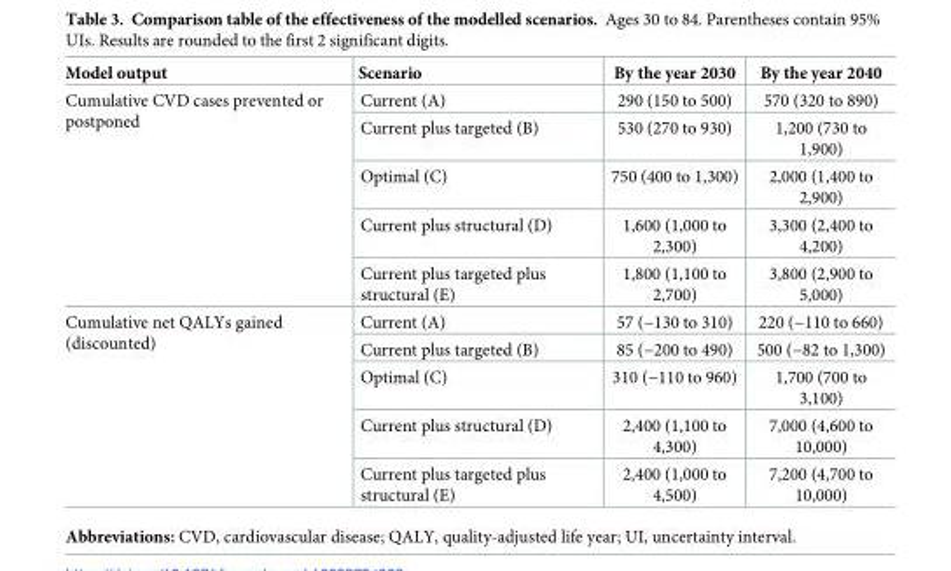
<table><thead><tr><td>Model output</td><td>Scenario</td><td>By the year 2030</td><td>By the year 2040</td></tr></thead><tbody><tr><td rowspan="5">Cumulative CVD cases prevented or postponed</td><td>Current (A)</td><td>290 (150 to 500)</td><td>570 (320 to 890)</td></tr><tr><td>Current plus targeted (B)</td><td>530 (270 to 930)</td><td>1,200 (730 to 1,900)</td></tr><tr><td>Optimal (C)</td><td>750 (400 to 1,300)</td><td>2,000 (1,400 to 2,900)</td></tr><tr><td>Current plus structural (D)</td><td>1,600 (1,000 to 2,300)</td><td>3,300 (2,400 to 4,200)</td></tr><tr><td>Current plus targeted plus structural (E)</td><td>1,800 (1,100 to 2,700)</td><td>3,800 (2,900 to 5,000)</td></tr><tr><td rowspan="5">Cumulative net QALYs gained (discounted)</td><td>Current (A)</td><td>57 (−130 to 310)</td><td>220 (−110 to 660)</td></tr><tr><td>Current plus targeted (B)</td><td>85 (−200 to 490)</td><td>500 (−82 to 1,300)</td></tr><tr><td>Optimal (C)</td><td>310 (−110 to 960)</td><td>1,700 (700 to 3,100)</td></tr><tr><td>Current plus structural (D)</td><td>2,400 (1,100 to 4,300)</td><td>7,000 (4,600 to 10,000)</td></tr><tr><td>Current plus targeted plus structural (E)</td><td>2,400 (1,000 to 4,500)</td><td>7,200 (4,700 to 10,000)</td></tr></tbody></table>